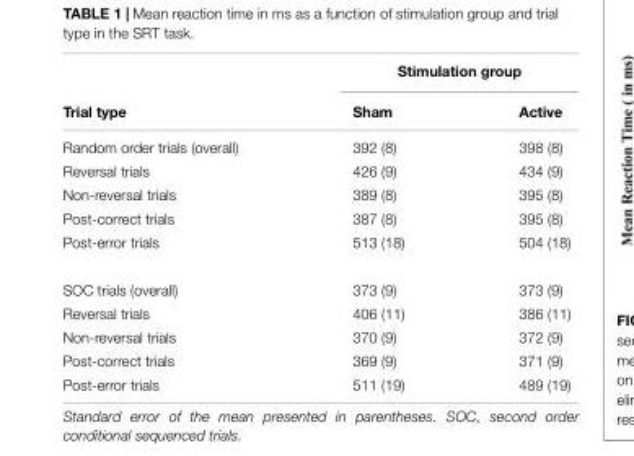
<table><thead><tr><td rowspan="2">Trial type</td><td colspan="2">Stimulation group</td></tr><tr><td>Sham</td><td>Active</td></tr></thead><tbody><tr><td>Random order trials (overall)</td><td>392 (8)</td><td>398 (8)</td></tr><tr><td>Reversal trials</td><td>426 (9)</td><td>434 (9)</td></tr><tr><td>Non-reversal trials</td><td>389 (8)</td><td>395 (8)</td></tr><tr><td>Post-correct trials</td><td>387 (8)</td><td>395 (8)</td></tr><tr><td>Post-error trials</td><td>513 (18)</td><td>504 (18)</td></tr><tr><td>SOC trials (overall)</td><td>373 (9)</td><td>373 (9)</td></tr><tr><td>Reversal trials</td><td>406 (11)</td><td>386 (11)</td></tr><tr><td>Non-reversal trials</td><td>370 (9)</td><td>372 (9)</td></tr><tr><td>Post-correct trials</td><td>369 (9)</td><td>371 (9)</td></tr><tr><td>Post-error trials</td><td>511 (19)</td><td>489 (19)</td></tr></tbody></table>